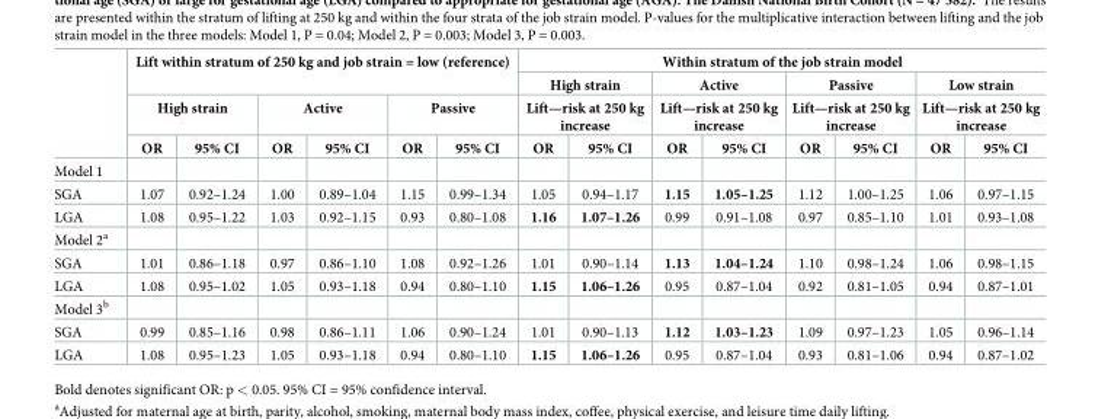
<table><thead><tr><td rowspan="4"></td><td rowspan="2" colspan="6">Lift within stratum of 250 kg and job strain = low (reference)</td><td colspan="8">Within stratum of the job strain model</td></tr><tr><td rowspan="2" colspan="2">High strain Lift—risk at 250 kg increase</td><td rowspan="2" colspan="2">Active Lift—risk at 250 kg increase</td><td rowspan="2" colspan="2">Passive Lift—risk at 250 kg increase</td><td rowspan="2" colspan="2">Low strain Lift—risk at 250 kg increase</td></tr><tr><td colspan="2">High strain</td><td colspan="2">Active</td><td colspan="2">Passive</td></tr><tr><td>OR</td><td>95% CI</td><td>OR</td><td>95% CI</td><td>OR</td><td>95% CI</td><td>OR</td><td>95% CI</td><td>OR</td><td>95% CI</td><td>OR</td><td>95% CI</td><td>OR</td><td>95% CI</td></tr></thead><tbody><tr><td colspan="15">Model 1</td></tr><tr><td>SGA</td><td>1.07</td><td>0.92–1.24</td><td>1.00</td><td>0.89–1.04</td><td>1.15</td><td>0.99–1.34</td><td>1.05</td><td>0.94–1.17</td><td>1.15</td><td>1.05–1.25</td><td>1.12</td><td>1.00–1.25</td><td>1.06</td><td>0.97–1.15</td></tr><tr><td>LGA</td><td>1.08</td><td>0.95–1.22</td><td>1.03</td><td>0.92–1.15</td><td>0.93</td><td>0.80–1.08</td><td>1.16</td><td>1.07–1.26</td><td>0.99</td><td>0.91–1.08</td><td>0.97</td><td>0.85–1.10</td><td>1.01</td><td>0.93–1.08</td></tr><tr><td colspan="15">Model 2<sup>a</sup></td></tr><tr><td>SGA</td><td>1.01</td><td>0.86–1.18</td><td>0.97</td><td>0.86–1.10</td><td>1.08</td><td>0.92–1.26</td><td>1.01</td><td>0.90–1.14</td><td>1.13</td><td>1.04–1.24</td><td>1.10</td><td>0.98–1.24</td><td>1.06</td><td>0.98–1.15</td></tr><tr><td>LGA</td><td>1.08</td><td>0.95–1.02</td><td>1.05</td><td>0.93–1.18</td><td>0.94</td><td>0.80–1.10</td><td>1.15</td><td>1.06–1.26</td><td>0.95</td><td>0.87–1.04</td><td>0.92</td><td>0.81–1.05</td><td>0.94</td><td>0.87–1.01</td></tr><tr><td colspan="15">Model 3<sup>b</sup></td></tr><tr><td>SGA</td><td>0.99</td><td>0.85–1.16</td><td>0.98</td><td>0.86–1.11</td><td>1.06</td><td>0.90–1.24</td><td>1.01</td><td>0.90–1.13</td><td>1.12</td><td>1.03–1.23</td><td>1.09</td><td>0.97–1.23</td><td>1.05</td><td>0.96–1.14</td></tr><tr><td>LGA</td><td>1.08</td><td>0.95–1.23</td><td>1.05</td><td>0.93–1.18</td><td>0.94</td><td>0.80–1.10</td><td>1.15</td><td>1.06–1.26</td><td>0.95</td><td>0.87–1.04</td><td>0.93</td><td>0.81–1.06</td><td>0.94</td><td>0.87–1.02</td></tr></tbody></table>